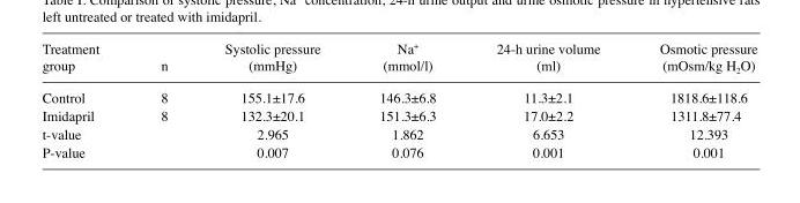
<table><thead><tr><td>Treatment group</td><td>n</td><td>Systolic pressure (mmHg)</td><td>Na<sup>+</sup> (mmol/l)</td><td>24-h urine volume (ml)</td><td>Osmotic pressure (mOsm/kg H<sub>2</sub>O)</td></tr></thead><tbody><tr><td>Control</td><td>8</td><td>155.1±17.6</td><td>146.3±6.8</td><td>11.3±2.1</td><td>1818.6±118.6</td></tr><tr><td>Imidapril</td><td>8</td><td>132.3±20.1</td><td>151.3±6.3</td><td>17.0±2.2</td><td>1311.8±77.4</td></tr><tr><td>t-value</td><td></td><td>2.965</td><td>1.862</td><td>6.653</td><td>12.393</td></tr><tr><td>P-value</td><td></td><td>0.007</td><td>0.076</td><td>0.001</td><td>0.001</td></tr></tbody></table>